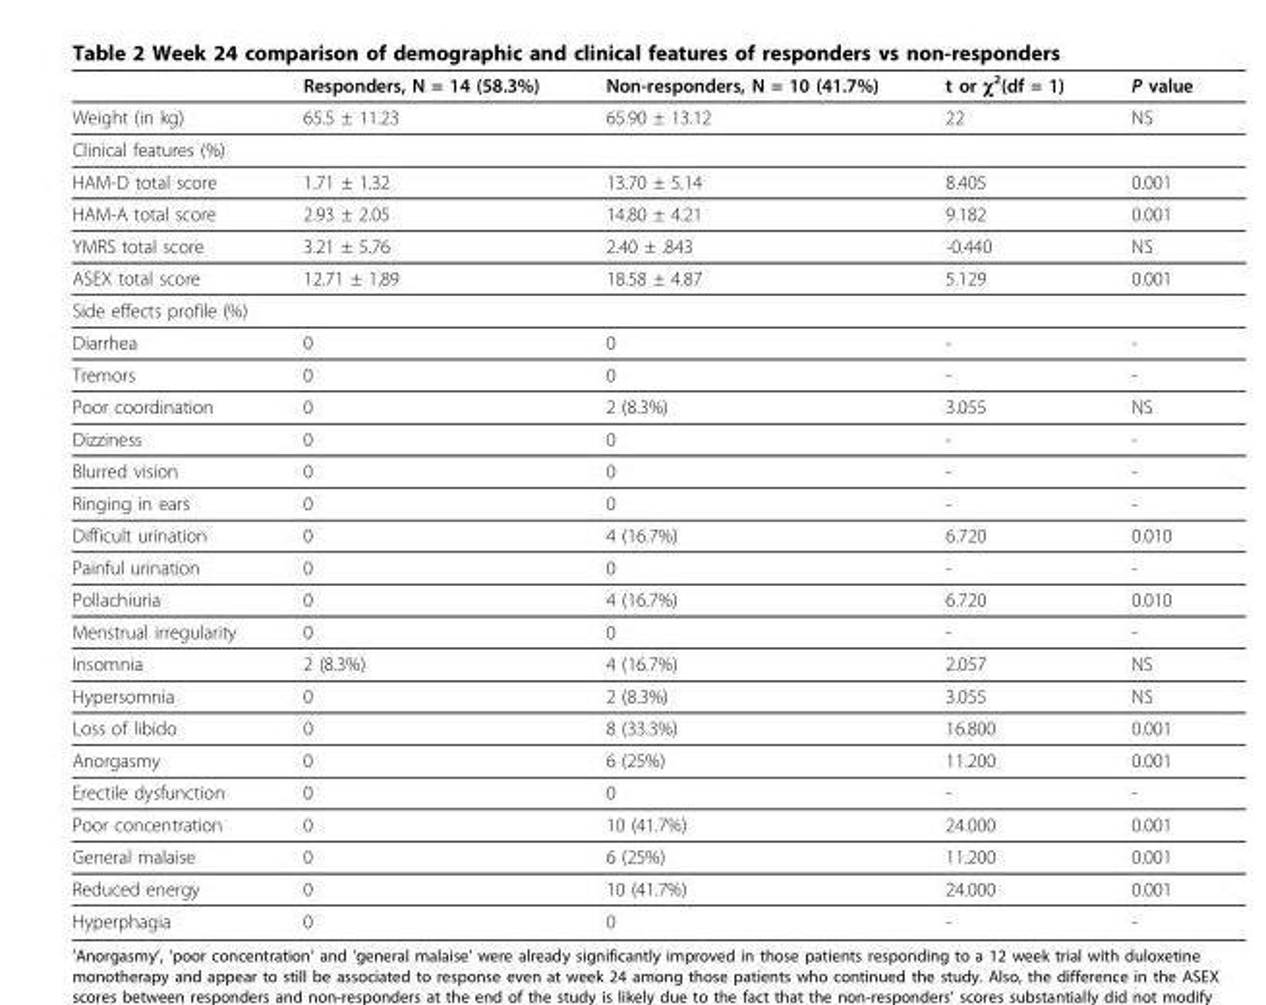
<table><thead><tr><td></td><td>Responders, N = 14 (58.3%)</td><td>Non-responders, N = 10 (41.7%)</td><td>t or χ<sup>2</sup>(df = 1)</td><td>P value</td></tr></thead><tbody><tr><td>Weight (in kg)</td><td>65.5 ± 11.23</td><td>65.90 ± 13.12</td><td>22</td><td>NS</td></tr><tr><td colspan="5">Clinical features (%)</td></tr><tr><td>HAM-D total score</td><td>1.71 ± 1.32</td><td>13.70 ± 5.14</td><td>8.405</td><td>0.001</td></tr><tr><td>HAM-A total score</td><td>2.93 ± 2.05</td><td>14.80 ± 4.21</td><td>9.182</td><td>0.001</td></tr><tr><td>YMRS total score</td><td>3.21 ± 5.76</td><td>2.40 ± .843</td><td>-0.440</td><td>NS</td></tr><tr><td>ASEX total score</td><td>12.71 ± 1.89</td><td>18.58 ± 4.87</td><td>5.129</td><td>0.001</td></tr><tr><td colspan="5">Side effects profile (%)</td></tr><tr><td>Diarrhea</td><td>0</td><td>0</td><td>-</td><td>-</td></tr><tr><td>Tremors</td><td>0</td><td>0</td><td>-</td><td>-</td></tr><tr><td>Poor coordination</td><td>0</td><td>2 (8.3%)</td><td>3.055</td><td>NS</td></tr><tr><td>Dizziness</td><td>0</td><td>0</td><td>-</td><td>-</td></tr><tr><td>Blurred vision</td><td>0</td><td>0</td><td>-</td><td>-</td></tr><tr><td>Ringing in ears</td><td>0</td><td>0</td><td>-</td><td>-</td></tr><tr><td>Difficult urination</td><td>0</td><td>4 (16.7%)</td><td>6.720</td><td>0.010</td></tr><tr><td>Painful urination</td><td>0</td><td>0</td><td>-</td><td>-</td></tr><tr><td>Pollachiuria</td><td>0</td><td>4 (16.7%)</td><td>6.720</td><td>0.010</td></tr><tr><td>Menstrual irregularity</td><td>0</td><td>0</td><td>-</td><td>-</td></tr><tr><td>Insomnia</td><td>2 (8.3%)</td><td>4 (16.7%)</td><td>2.057</td><td>NS</td></tr><tr><td>Hypersomnia</td><td>0</td><td>2 (8.3%)</td><td>3.055</td><td>NS</td></tr><tr><td>Loss of libido</td><td>0</td><td>8 (33.3%)</td><td>16.800</td><td>0.001</td></tr><tr><td>Anorgasmy</td><td>0</td><td>6 (25%)</td><td>11.200</td><td>0.001</td></tr><tr><td>Erectile dysfunction</td><td>0</td><td>0</td><td>-</td><td>-</td></tr><tr><td>Poor concentration</td><td>0</td><td>10 (41.7%)</td><td>24.000</td><td>0.001</td></tr><tr><td>General malaise</td><td>0</td><td>6 (25%)</td><td>11.200</td><td>0.001</td></tr><tr><td>Reduced energy</td><td>0</td><td>10 (41.7%)</td><td>24.000</td><td>0.001</td></tr><tr><td>Hyperphagia</td><td>0</td><td>0</td><td>-</td><td>-</td></tr></tbody></table>